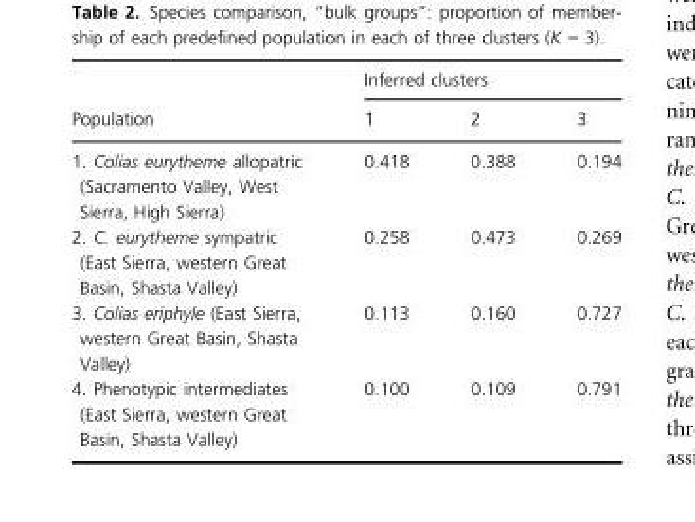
<table><thead><tr><td rowspan="2">Population</td><td colspan="3">Inferred clusters</td></tr><tr><td>1</td><td>2</td><td>3</td></tr></thead><tbody><tr><td>1. Colias eurytheme allopatric (Sacramento Valley, West Sierra, High Sierra)</td><td>0.418</td><td>0.388</td><td>0.194</td></tr><tr><td>2. C. eurytheme sympatric (East Sierra, western Great Basin, Shasta Valley)</td><td>0.258</td><td>0.473</td><td>0.269</td></tr><tr><td>3. Colias eriphyle (East Sierra, western Great Basin, Shasta Valley)</td><td>0.113</td><td>0.160</td><td>0.727</td></tr><tr><td>4. Phenotypic intermediates (East Sierra, western Great Basin, Shasta Valley)</td><td>0.100</td><td>0.109</td><td>0.791</td></tr></tbody></table>